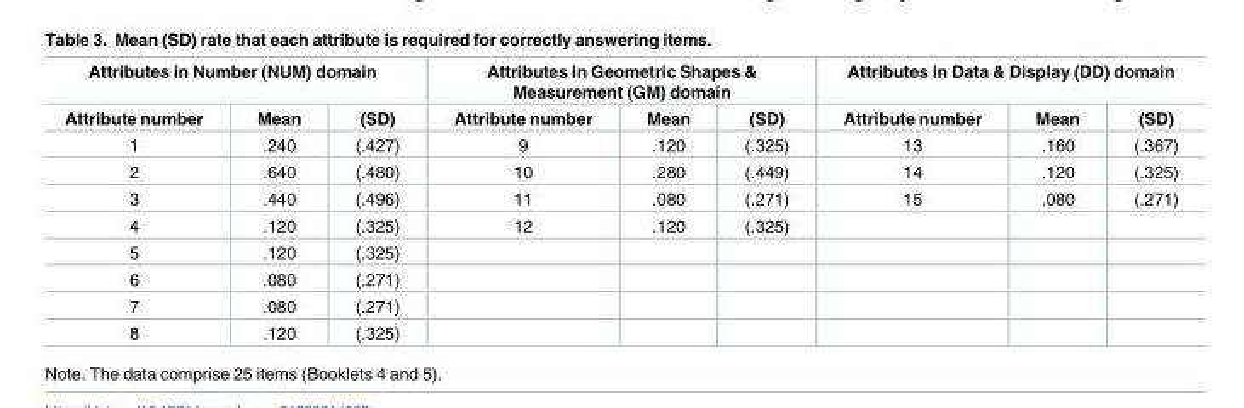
<table><thead><tr><td colspan="3">Attributes in Number (NUM) domain</td><td colspan="3">Attributes in Geometric Shapes &amp; Measurement (GM) domain</td><td colspan="3">Attributes in Data &amp; Display (DD) domain</td></tr><tr><td>Attribute number</td><td>Mean</td><td>(SD)</td><td>Attribute number</td><td>Mean</td><td>(SD)</td><td>Attribute number</td><td>Mean</td><td>(SD)</td></tr></thead><tbody><tr><td>1</td><td>.240</td><td>(.427)</td><td>9</td><td>.120</td><td>(.325)</td><td>13</td><td>.160</td><td>(.367)</td></tr><tr><td>2</td><td>.640</td><td>(.480)</td><td>10</td><td>.280</td><td>(.449)</td><td>14</td><td>.120</td><td>(.325)</td></tr><tr><td>3</td><td>.440</td><td>(.496)</td><td>11</td><td>.080</td><td>(.271)</td><td>15</td><td>.080</td><td>(.271)</td></tr><tr><td>4</td><td>.120</td><td>(.325)</td><td>12</td><td>.120</td><td>(.325)</td><td></td><td></td><td></td></tr><tr><td>5</td><td>.120</td><td>(.325)</td><td></td><td></td><td></td><td></td><td></td><td></td></tr><tr><td>6</td><td>.080</td><td>(.271)</td><td></td><td></td><td></td><td></td><td></td><td></td></tr><tr><td>7</td><td>.080</td><td>(.271)</td><td></td><td></td><td></td><td></td><td></td><td></td></tr><tr><td>8</td><td>.120</td><td>(.325)</td><td></td><td></td><td></td><td></td><td></td><td></td></tr></tbody></table>